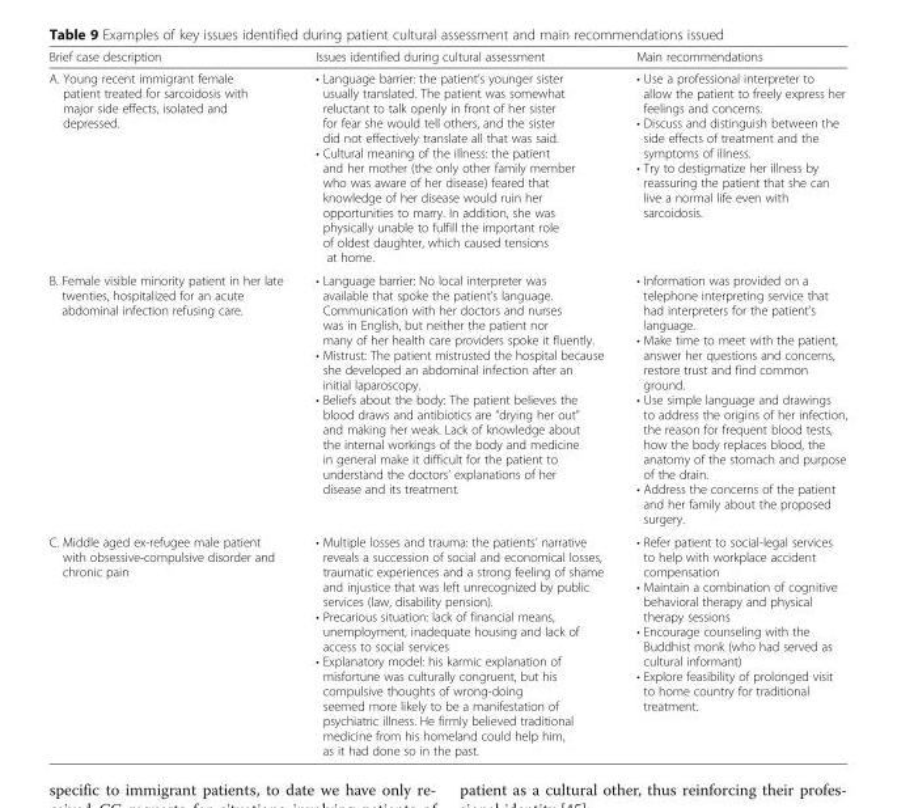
<table><thead><tr><td>Brief case description</td><td>Issues identified during cultural assessment</td><td>Main recommendations</td></tr></thead><tbody><tr><td>A. Young recent immigrant female patient treated for sarcoidosis with major side effects, isolated and depressed.</td><td>• Language barrier: the patient’s younger sister usually translated. The patient was somewhat reluctant to talk openly in front of her sister for fear she would tell others, and the sister did not effectively translate all that was said. • Cultural meaning of the illness: the patient and her mother (the only other family member who was aware of her disease) feared that knowledge of her disease would ruin her opportunities to marry. In addition, she was physically unable to fulfill the important role of oldest daughter, which caused tensions at home.</td><td>• Use a professional interpreter to allow the patient to freely express her feelings and concerns. • Discuss and distinguish between the side effects of treatment and the symptoms of illness. • Try to destigmatize her illness by reassuring the patient that she can live a normal life even with sarcoidosis.</td></tr><tr><td>B. Female visible minority patient in her late twenties, hospitalized for an acute abdominal infection refusing care.</td><td>• Language barrier: No local interpreter was available that spoke the patient’s language. Communication with her doctors and nurses was in English, but neither the patient nor many of her health care providers spoke it fluently. • Mistrust: The patient mistrusted the hospital because she developed an abdominal infection after an initial laparoscopy. • Beliefs about the body: The patient believes the blood draws and antibiotics are “drying her out” and making her weak. Lack of knowledge about the internal workings of the body and medicine in general make it difficult for the patient to understand the doctors’ explanations of her disease and its treatment.</td><td>• Information was provided on a telephone interpreting service that had interpreters for the patient’s language. • Make time to meet with the patient, answer her questions and concerns, restore trust and find common ground. • Use simple language and drawings to address the origins of her infection, the reason for frequent blood tests, how the body replaces blood, the anatomy of the stomach and purpose of the drain. • Address the concerns of the patient and her family about the proposed surgery.</td></tr><tr><td>C. Middle aged ex-refugee male patient with obsessive-compulsive disorder and chronic pain</td><td>• Multiple losses and trauma: the patients’ narrative reveals a succession of social and economical losses, traumatic experiences and a strong feeling of shame and injustice that was left unrecognized by public services (law, disability pension). • Precarious situation: lack of financial means, unemployment, inadequate housing and lack of access to social services • Explanatory model: his karmic explanation of misfortune was culturally congruent, but his compulsive thoughts of wrong-doing seemed more likely to be a manifestation of psychiatric illness. He firmly believed traditional medicine from his homeland could help him, as it had done so in the past.</td><td>• Refer patient to social-legal services to help with workplace accident compensation • Maintain a combination of cognitive behavioral therapy and physical therapy sessions • Encourage counseling with the Buddhist monk (who had served as cultural informant) • Explore feasibility of prolonged visit to home country for traditional treatment.</td></tr></tbody></table>